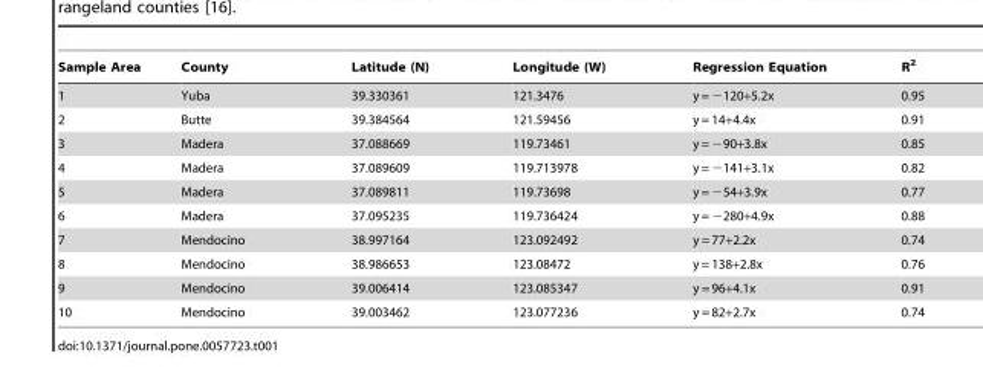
<table><thead><tr><td>Sample Area</td><td>County</td><td>Latitude (N)</td><td>Longitude (W)</td><td>Regression Equation</td><td>R<sup>2</sup></td></tr></thead><tbody><tr><td>1</td><td>Yuba</td><td>39.330361</td><td>121.3476</td><td>y = −120+5.2x</td><td>0.95</td></tr><tr><td>2</td><td>Butte</td><td>39.384564</td><td>121.59456</td><td>y = 14+4.4x</td><td>0.91</td></tr><tr><td>3</td><td>Madera</td><td>37.088669</td><td>119.73461</td><td>y = −90+3.8x</td><td>0.85</td></tr><tr><td>4</td><td>Madera</td><td>37.089609</td><td>119.713978</td><td>y = −141+3.1x</td><td>0.82</td></tr><tr><td>5</td><td>Madera</td><td>37.089811</td><td>119.73698</td><td>y = −54+3.9x</td><td>0.77</td></tr><tr><td>6</td><td>Madera</td><td>37.095235</td><td>119.736424</td><td>y = −280+4.9x</td><td>0.88</td></tr><tr><td>7</td><td>Mendocino</td><td>38.997164</td><td>123.092492</td><td>y = 77+2.2x</td><td>0.74</td></tr><tr><td>8</td><td>Mendocino</td><td>38.986653</td><td>123.08472</td><td>y = 138+2.8x</td><td>0.76</td></tr><tr><td>9</td><td>Mendocino</td><td>39.006414</td><td>123.085347</td><td>y = 96+4.1x</td><td>0.91</td></tr><tr><td>10</td><td>Mendocino</td><td>39.003462</td><td>123.077236</td><td>y = 82+2.7x</td><td>0.74</td></tr></tbody></table>